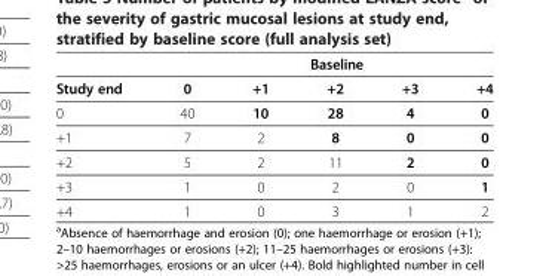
<table><thead><tr><td rowspan="2">Study end</td><td colspan="5">Baseline</td></tr><tr><td>0</td><td>+1</td><td>+2</td><td>+3</td><td>+4</td></tr></thead><tbody><tr><td>0</td><td>40</td><td>10</td><td>28</td><td>4</td><td>0</td></tr><tr><td>+1</td><td>7</td><td>2</td><td>8</td><td>0</td><td>0</td></tr><tr><td>+2</td><td>5</td><td>2</td><td>11</td><td>2</td><td>0</td></tr><tr><td>+3</td><td>1</td><td>0</td><td>2</td><td>0</td><td>1</td></tr><tr><td>+4</td><td>1</td><td>0</td><td>3</td><td>1</td><td>2</td></tr></tbody></table>